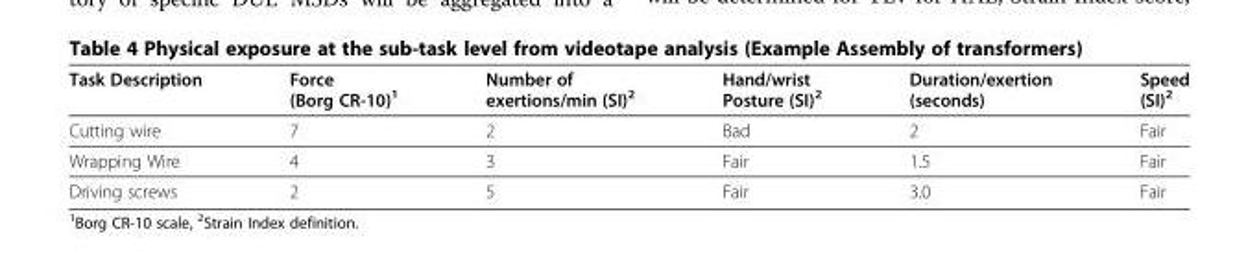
<table><thead><tr><td>Task Description</td><td>Force (Borg CR-10)<sup>1</sup></td><td>Number of exertions/min (SI)<sup>2</sup></td><td>Hand/wrist Posture (SI)<sup>2</sup></td><td>Duration/exertion (seconds)</td><td>Speed (SI)<sup>2</sup></td></tr></thead><tbody><tr><td>Cutting wire</td><td>7</td><td>2</td><td>Bad</td><td>2</td><td>Fair</td></tr><tr><td>Wrapping Wire</td><td>4</td><td>3</td><td>Fair</td><td>1.5</td><td>Fair</td></tr><tr><td>Driving screws</td><td>2</td><td>5</td><td>Fair</td><td>3.0</td><td>Fair</td></tr></tbody></table>